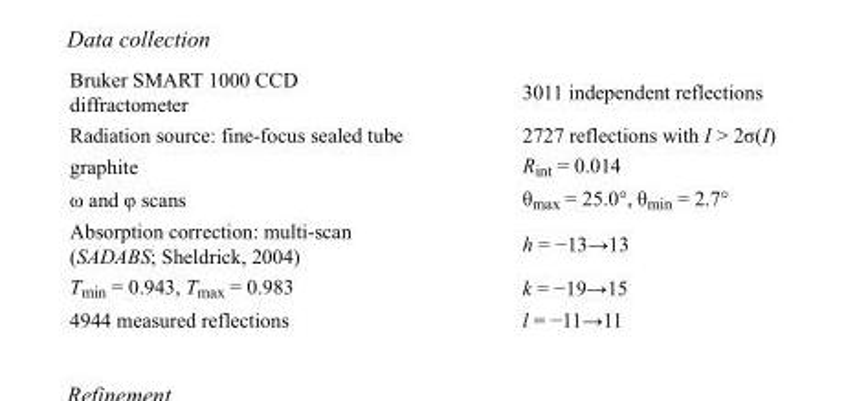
<table><tbody><tr><td>Bruker SMART 1000 CCD diffractometer</td><td>3011 independent reflections</td></tr><tr><td>Radiation source: fine-focus sealed tube</td><td>2727 reflections with I &gt; 2σ(I)</td></tr><tr><td>graphite</td><td>R<sub>int</sub> = 0.014</td></tr><tr><td>ω and φ scans</td><td>θ<sub>max</sub> = 25.0°, θ<sub>min</sub> = 2.7°</td></tr><tr><td>Absorption correction: multi-scan (SADABS; Sheldrick, 2004)</td><td>h = −13→13</td></tr><tr><td>T<sub>min</sub> = 0.943, T<sub>max</sub> = 0.983</td><td>k = −19→15</td></tr><tr><td>4944 measured reflections</td><td>l = −11→11</td></tr></tbody></table>